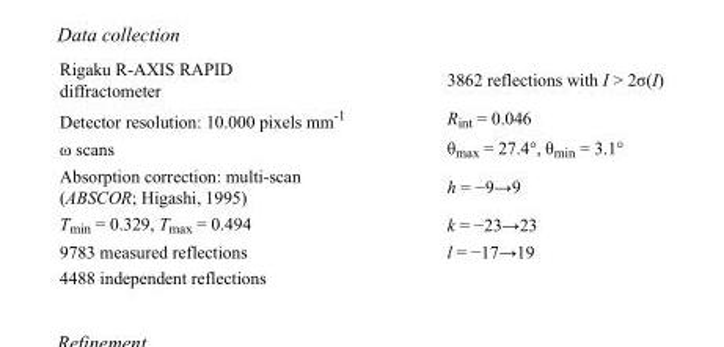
<table><tbody><tr><td>Rigaku R-AXIS RAPID diffractometer</td><td>3862 reflections with I &gt; 2σ(I)</td></tr><tr><td>Detector resolution: 10.000 pixels mm<sup>-1</sup></td><td>R<sub>int</sub> = 0.046</td></tr><tr><td>ω scans</td><td>θ<sub>max</sub> = 27.4°, θ<sub>min</sub> = 3.1°</td></tr><tr><td>Absorption correction: multi-scan (ABSCOR; Higashi, 1995)</td><td>h = −9→9</td></tr><tr><td>T<sub>min</sub> = 0.329, T<sub>max</sub> = 0.494</td><td>k = −23→23</td></tr><tr><td>9783 measured reflections</td><td>l = −17→19</td></tr><tr><td>4488 independent reflections</td><td></td></tr></tbody></table>